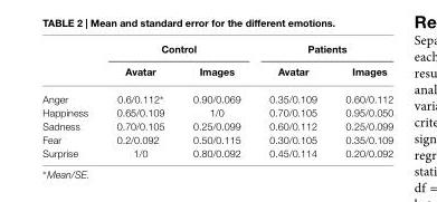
<table><thead><tr><td rowspan="2"></td><td colspan="2">Control</td><td colspan="2">Patients</td></tr><tr><td>Avatar</td><td>Images</td><td>Avatar</td><td>Images</td></tr></thead><tbody><tr><td>Anger</td><td>0.6/0.112∗</td><td>0.90/0.069</td><td>0.35/0.109</td><td>0.60/0.112</td></tr><tr><td>Happiness</td><td>0.65/0.109</td><td>1/0</td><td>0.70/0.105</td><td>0.95/0.050</td></tr><tr><td>Sadness</td><td>0.70/0.105</td><td>0.25/0.099</td><td>0.60/0.112</td><td>0.25/0.099</td></tr><tr><td>Fear</td><td>0.2/0.092</td><td>0.50/0.115</td><td>0.30/0.105</td><td>0.35/0.109</td></tr><tr><td>Surprise</td><td>1/0</td><td>0.80/0.092</td><td>0.45/0.114</td><td>0.20/0.092</td></tr></tbody></table>